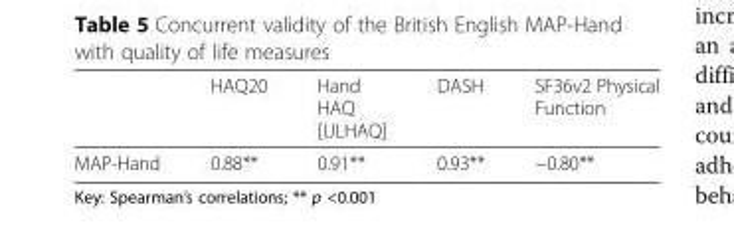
<table><thead><tr><td></td><td>HAQ20</td><td>Hand HAQ [ULHAQ]</td><td>DASH</td><td>SF36v2 Physical Function</td></tr></thead><tbody><tr><td>MAP-Hand</td><td>0.88**</td><td>0.91**</td><td>0.93**</td><td>−0.80**</td></tr></tbody></table>